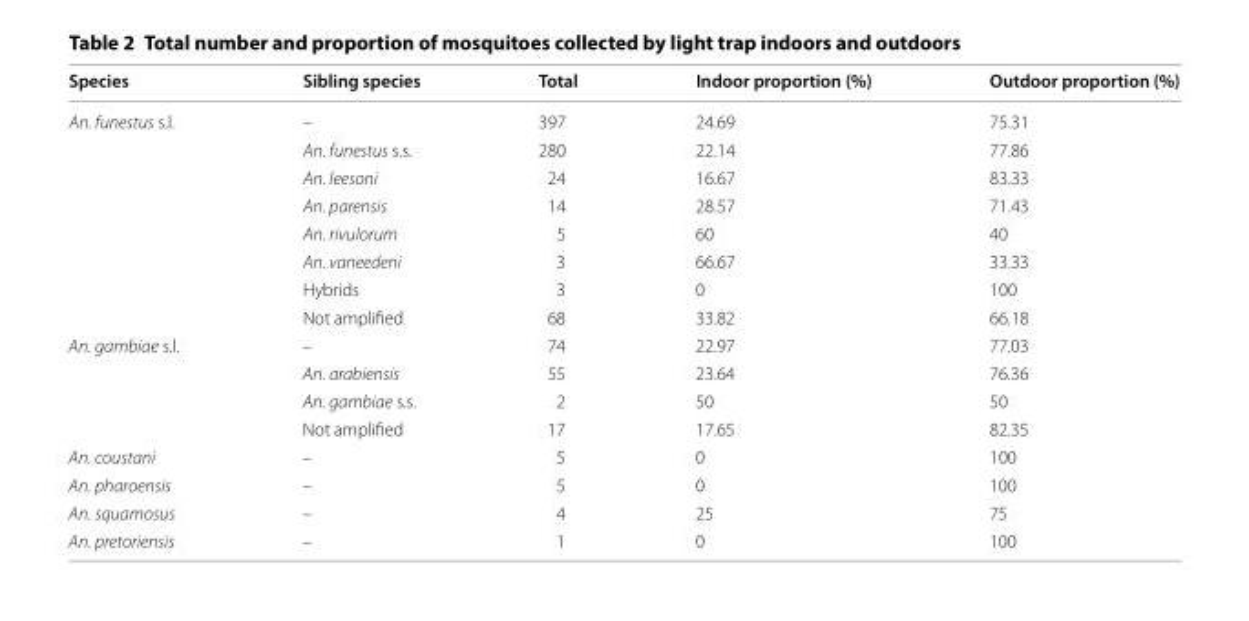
<table><thead><tr><td>Species</td><td>Sibling species</td><td>Total</td><td>Indoor proportion (%)</td><td>Outdoor proportion (%)</td></tr></thead><tbody><tr><td rowspan="8">An. funestus s.l.</td><td>–</td><td>397</td><td>24.69</td><td>75.31</td></tr><tr><td>An. funestus s.s.</td><td>280</td><td>22.14</td><td>77.86</td></tr><tr><td>An. leesoni</td><td>24</td><td>16.67</td><td>83.33</td></tr><tr><td>An. parensis</td><td>14</td><td>28.57</td><td>71.43</td></tr><tr><td>An. rivulorum</td><td>5</td><td>60</td><td>40</td></tr><tr><td>An. vaneedeni</td><td>3</td><td>66.67</td><td>33.33</td></tr><tr><td>Hybrids</td><td>3</td><td>0</td><td>100</td></tr><tr><td>Not amplified</td><td>68</td><td>33.82</td><td>66.18</td></tr><tr><td rowspan="4">An. gambiae s.l.</td><td>–</td><td>74</td><td>22.97</td><td>77.03</td></tr><tr><td>An. arabiensis</td><td>55</td><td>23.64</td><td>76.36</td></tr><tr><td>An. gambiae s.s.</td><td>2</td><td>50</td><td>50</td></tr><tr><td>Not amplified</td><td>17</td><td>17.65</td><td>82.35</td></tr><tr><td>An. coustani</td><td>–</td><td>5</td><td>0</td><td>100</td></tr><tr><td>An. pharoensis</td><td>–</td><td>5</td><td>0</td><td>100</td></tr><tr><td>An. squamosus</td><td>–</td><td>4</td><td>25</td><td>75</td></tr><tr><td>An. pretoriensis</td><td>–</td><td>1</td><td>0</td><td>100</td></tr></tbody></table>